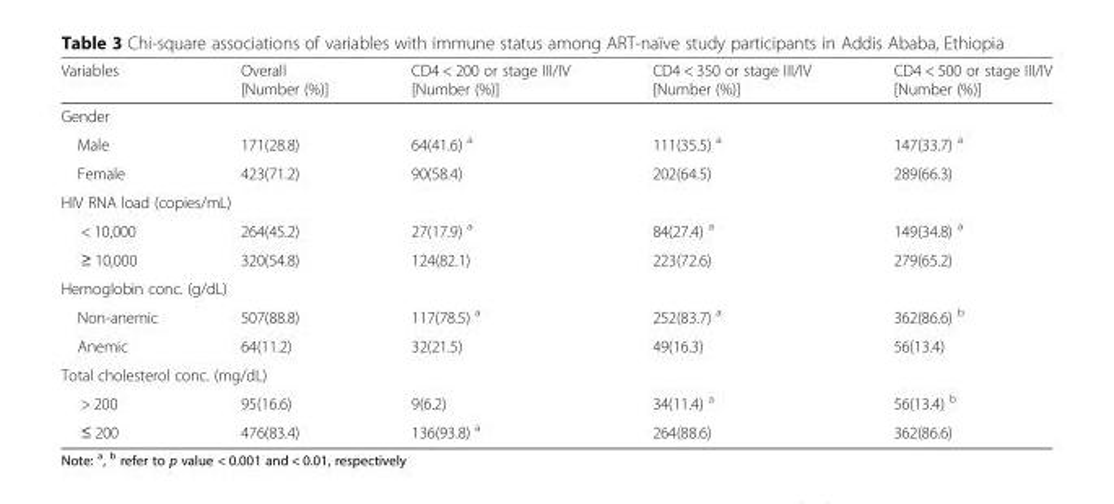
<table><thead><tr><td>Variables</td><td>Overall [Number (%)]</td><td>CD4 &lt; 200 or stage III/IV [Number (%)]</td><td>CD4 &lt; 350 or stage III/IV [Number (%)]</td><td>CD4 &lt; 500 or stage III/IV [Number (%)]</td></tr></thead><tbody><tr><td colspan="5">Gender</td></tr><tr><td>Male</td><td>171(28.8)</td><td>64(41.6) <sup>a</sup></td><td>111(35.5) <sup>a</sup></td><td>147(33.7) <sup>a</sup></td></tr><tr><td>Female</td><td>423(71.2)</td><td>90(58.4)</td><td>202(64.5)</td><td>289(66.3)</td></tr><tr><td colspan="5">HIV RNA load (copies/mL)</td></tr><tr><td>&lt; 10,000</td><td>264(45.2)</td><td>27(17.9) <sup>a</sup></td><td>84(27.4) <sup>a</sup></td><td>149(34.8) <sup>a</sup></td></tr><tr><td>≥ 10,000</td><td>320(54.8)</td><td>124(82.1)</td><td>223(72.6)</td><td>279(65.2)</td></tr><tr><td colspan="5">Hemoglobin conc. (g/dL)</td></tr><tr><td>Non-anemic</td><td>507(88.8)</td><td>117(78.5) <sup>a</sup></td><td>252(83.7) <sup>a</sup></td><td>362(86.6) <sup>b</sup></td></tr><tr><td>Anemic</td><td>64(11.2)</td><td>32(21.5)</td><td>49(16.3)</td><td>56(13.4)</td></tr><tr><td colspan="5">Total cholesterol conc. (mg/dL)</td></tr><tr><td>&gt; 200</td><td>95(16.6)</td><td>9(6.2)</td><td>34(11.4) <sup>a</sup></td><td>56(13.4) <sup>b</sup></td></tr><tr><td>≤ 200</td><td>476(83.4)</td><td>136(93.8) <sup>a</sup></td><td>264(88.6)</td><td>362(86.6)</td></tr></tbody></table>